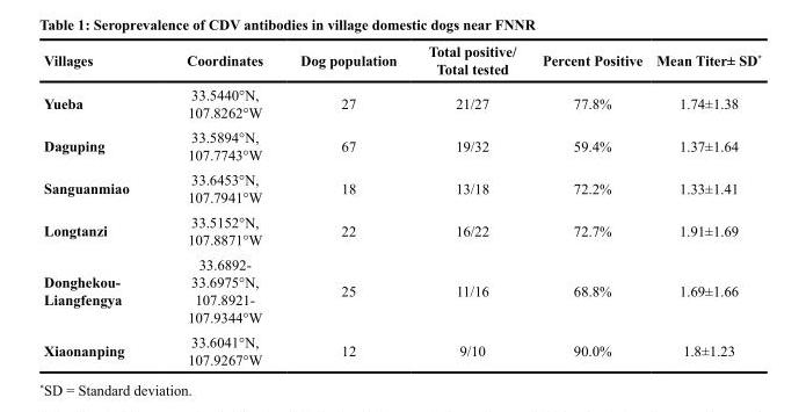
<table><thead><tr><td>Villages</td><td>Coordinates</td><td>Dog population</td><td>Total positive/ Total tested</td><td>Percent Positive</td><td>Mean Titer± SD*</td></tr></thead><tbody><tr><td>Yueba</td><td>33.5440°N, 107.8262°W</td><td>27</td><td>21/27</td><td>77.8%</td><td>1.74±1.38</td></tr><tr><td>Daguping</td><td>33.5894°N, 107.7743°W</td><td>67</td><td>19/32</td><td>59.4%</td><td>1.37±1.64</td></tr><tr><td>Sanguanmiao</td><td>33.6453°N, 107.7941°W</td><td>18</td><td>13/18</td><td>72.2%</td><td>1.33±1.41</td></tr><tr><td>Longtanzi</td><td>33.5152°N, 107.8871°W</td><td>22</td><td>16/22</td><td>72.7%</td><td>1.91±1.69</td></tr><tr><td>Donghekou- Liangfengya</td><td>33.6892- 33.6975°N, 107.8921- 107.9344°W</td><td>25</td><td>11/16</td><td>68.8%</td><td>1.69±1.66</td></tr><tr><td>Xiaonanping</td><td>33.6041°N, 107.9267°W</td><td>12</td><td>9/10</td><td>90.0%</td><td>1.8±1.23</td></tr></tbody></table>